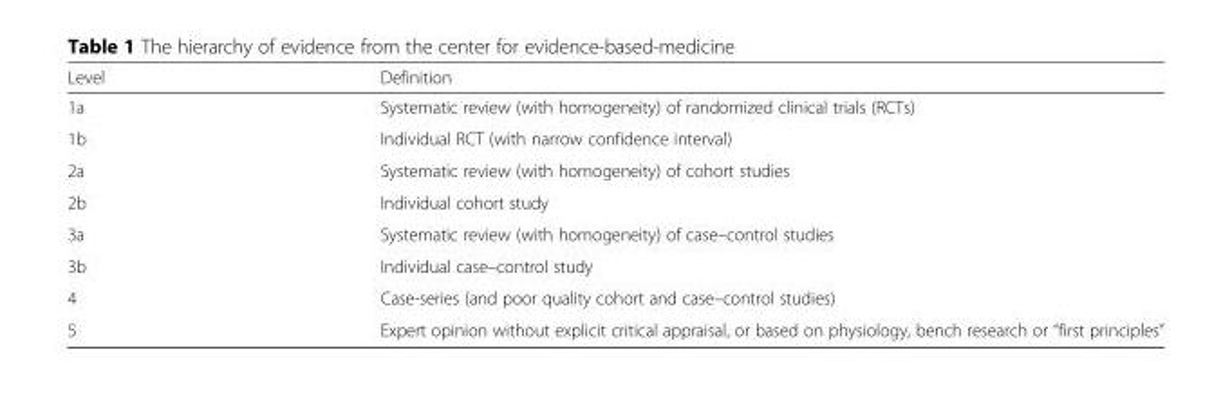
<table><thead><tr><td>Level</td><td>Definition</td></tr></thead><tbody><tr><td>1a</td><td>Systematic review (with homogeneity) of randomized clinical trials (RCTs)</td></tr><tr><td>1b</td><td>Individual RCT (with narrow confidence interval)</td></tr><tr><td>2a</td><td>Systematic review (with homogeneity) of cohort studies</td></tr><tr><td>2b</td><td>Individual cohort study</td></tr><tr><td>3a</td><td>Systematic review (with homogeneity) of case–control studies</td></tr><tr><td>3b</td><td>Individual case–control study</td></tr><tr><td>4</td><td>Case-series (and poor quality cohort and case–control studies)</td></tr><tr><td>5</td><td>Expert opinion without explicit critical appraisal, or based on physiology, bench research or “first principles”</td></tr></tbody></table>